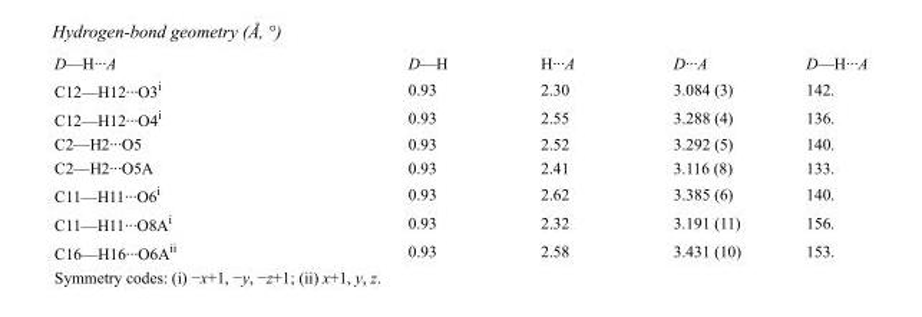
<table><tbody><tr><td>D—H···A</td><td>D—H</td><td>H···A</td><td>D···A</td><td>D—H···A</td></tr><tr><td>C12—H12···O3<sup>i</sup></td><td>0.93</td><td>2.30</td><td>3.084 (3)</td><td>142.</td></tr><tr><td>C12—H12···O4<sup>i</sup></td><td>0.93</td><td>2.55</td><td>3.288 (4)</td><td>136.</td></tr><tr><td>C2—H2···O5</td><td>0.93</td><td>2.52</td><td>3.292 (5)</td><td>140.</td></tr><tr><td>C2—H2···O5A</td><td>0.93</td><td>2.41</td><td>3.116 (8)</td><td>133.</td></tr><tr><td>C11—H11···O6<sup>i</sup></td><td>0.93</td><td>2.62</td><td>3.385 (6)</td><td>140.</td></tr><tr><td>C11—H11···O8A<sup>i</sup></td><td>0.93</td><td>2.32</td><td>3.191 (11)</td><td>156.</td></tr><tr><td>C16—H16···O6A<sup>ii</sup></td><td>0.93</td><td>2.58</td><td>3.431 (10)</td><td>153.</td></tr></tbody></table>